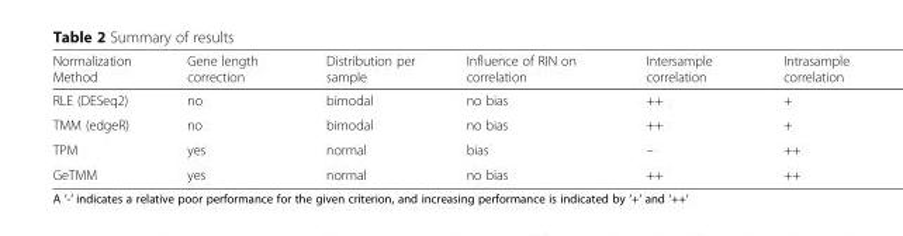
<table><thead><tr><td>Normalization Method</td><td>Gene length correction</td><td>Distribution per sample</td><td>Influence of RIN on correlation</td><td>Intersample correlation</td><td>Intrasample correlation</td></tr></thead><tbody><tr><td>RLE (DESeq2)</td><td>no</td><td>bimodal</td><td>no bias</td><td>++</td><td>+</td></tr><tr><td>TMM (edgeR)</td><td>no</td><td>bimodal</td><td>no bias</td><td>++</td><td>+</td></tr><tr><td>TPM</td><td>yes</td><td>normal</td><td>bias</td><td>–</td><td>++</td></tr><tr><td>GeTMM</td><td>yes</td><td>normal</td><td>no bias</td><td>++</td><td>++</td></tr></tbody></table>